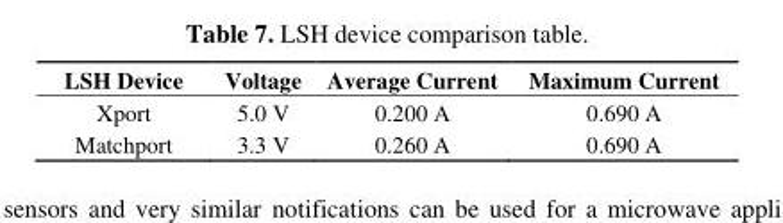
<table><thead><tr><td>LSH Device</td><td>Voltage</td><td>Average Current</td><td>Maximum Current</td></tr></thead><tbody><tr><td>Xport</td><td>5.0 V</td><td>0.200 A</td><td>0.690 A</td></tr><tr><td>Matchport</td><td>3.3 V</td><td>0.260 A</td><td>0.690 A</td></tr></tbody></table>